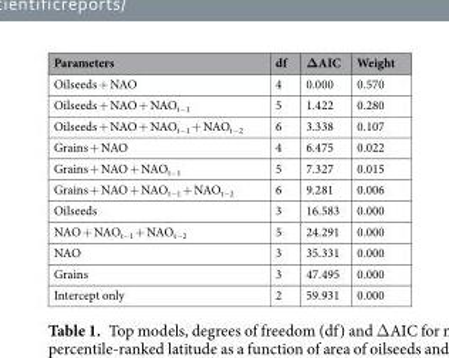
<table><thead><tr><td>Parameters</td><td>df</td><td>ΔAIC</td><td>Weight</td></tr></thead><tbody><tr><td>Oilseeds + NAO</td><td>4</td><td>0.000</td><td>0.570</td></tr><tr><td>Oilseeds + NAO + NAO<sub>t−1</sub></td><td>5</td><td>1.422</td><td>0.280</td></tr><tr><td>Oilseeds + NAO + NAO<sub>t−1</sub> + NAO<sub>t−2</sub></td><td>6</td><td>3.338</td><td>0.107</td></tr><tr><td>Grains + NAO</td><td>4</td><td>6.475</td><td>0.022</td></tr><tr><td>Grains + NAO + NAO<sub>t−1</sub></td><td>5</td><td>7.327</td><td>0.015</td></tr><tr><td>Grains + NAO + NAO<sub>t−1</sub> + NAO<sub>t−2</sub></td><td>6</td><td>9.281</td><td>0.006</td></tr><tr><td>Oilseeds</td><td>3</td><td>16.583</td><td>0.000</td></tr><tr><td>NAO + NAO<sub>t−1</sub> + NAO<sub>t−2</sub></td><td>5</td><td>24.291</td><td>0.000</td></tr><tr><td>NAO</td><td>3</td><td>35.331</td><td>0.000</td></tr><tr><td>Grains</td><td>3</td><td>47.495</td><td>0.000</td></tr><tr><td>Intercept only</td><td>2</td><td>59.931</td><td>0.000</td></tr></tbody></table>